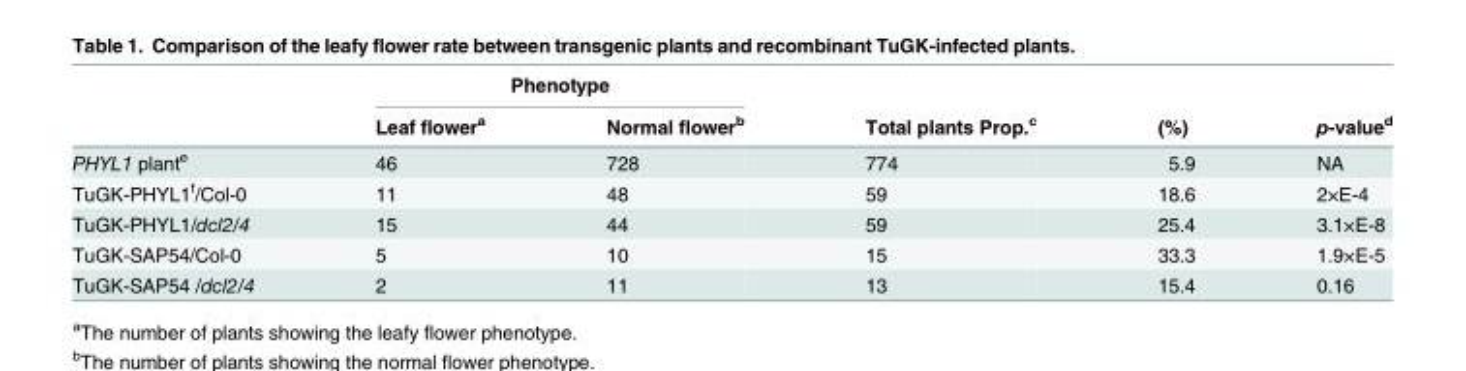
<table><thead><tr><td rowspan="2"></td><td colspan="2">Phenotype</td><td rowspan="2">Total plants Prop.<sup>c</sup></td><td rowspan="2">(%)</td><td rowspan="2">p-value<sup>d</sup></td></tr><tr><td>Leaf flower<sup>a</sup></td><td>Normal flower<sup>b</sup></td></tr></thead><tbody><tr><td>PHYL1 plant<sup>e</sup></td><td>46</td><td>728</td><td>774</td><td>5.9</td><td>NA</td></tr><tr><td>TuGK-PHYL1<sup>f</sup>/Col-0</td><td>11</td><td>48</td><td>59</td><td>18.6</td><td>2×E-4</td></tr><tr><td>TuGK-PHYL1/dcl2/4</td><td>15</td><td>44</td><td>59</td><td>25.4</td><td>3.1×E-8</td></tr><tr><td>TuGK-SAP54/Col-0</td><td>5</td><td>10</td><td>15</td><td>33.3</td><td>1.9×E-5</td></tr><tr><td>TuGK-SAP54 /dcl2/4</td><td>2</td><td>11</td><td>13</td><td>15.4</td><td>0.16</td></tr></tbody></table>